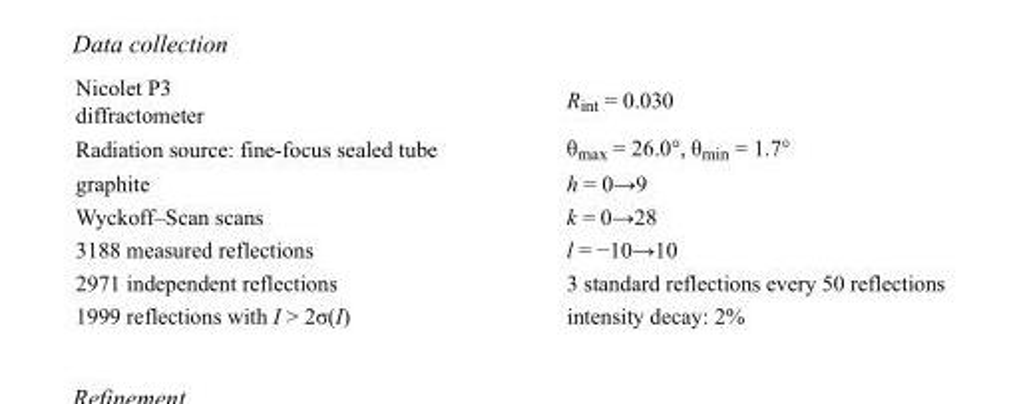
<table><tbody><tr><td>Nicolet P3 diffractometer</td><td>R<sub>int</sub> = 0.030</td></tr><tr><td>Radiation source: fine-focus sealed tube</td><td>θ<sub>max</sub> = 26.0°, θ<sub>min</sub> = 1.7°</td></tr><tr><td>graphite</td><td>h = 0→9</td></tr><tr><td>Wyckoff–Scan scans</td><td>k = 0→28</td></tr><tr><td>3188 measured reflections</td><td>l = −10→10</td></tr><tr><td>2971 independent reflections</td><td>3 standard reflections every 50 reflections</td></tr><tr><td>1999 reflections with I &gt; 2σ(I)</td><td>intensity decay: 2%</td></tr></tbody></table>